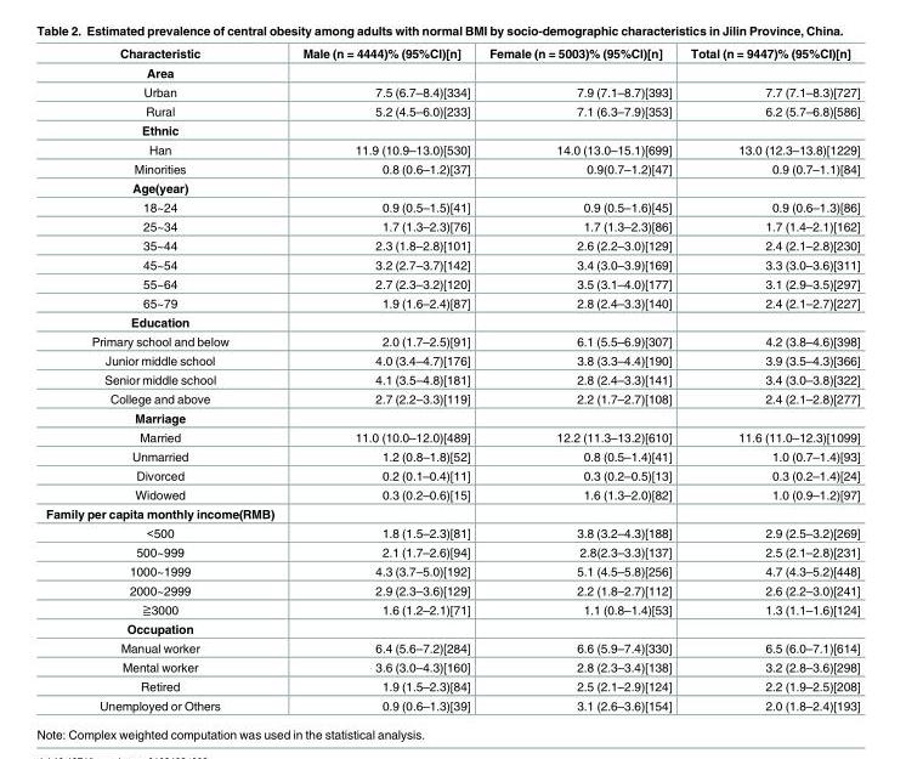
<table><thead><tr><td>Characteristic</td><td>Male (n = 4444)% (95%CI)[n]</td><td>Female (n = 5003)% (95%CI)[n]</td><td>Total (n = 9447)% (95%CI)[n]</td></tr></thead><tbody><tr><td colspan="4">Area</td></tr><tr><td>Urban</td><td>7.5 (6.7–8.4)[334]</td><td>7.9 (7.1–8.7)[393]</td><td>7.7 (7.1–8.3)[727]</td></tr><tr><td>Rural</td><td>5.2 (4.5–6.0)[233]</td><td>7.1 (6.3–7.9)[353]</td><td>6.2 (5.7–6.8)[586]</td></tr><tr><td colspan="4">Ethnic</td></tr><tr><td>Han</td><td>11.9 (10.9–13.0)[530]</td><td>14.0 (13.0–15.1)[699]</td><td>13.0 (12.3–13.8)[1229]</td></tr><tr><td>Minorities</td><td>0.8 (0.6–1.2)[37]</td><td>0.9(0.7–1.2)[47]</td><td>0.9 (0.7–1.1)[84]</td></tr><tr><td colspan="4">Age(year)</td></tr><tr><td>18~24</td><td>0.9 (0.5–1.5)[41]</td><td>0.9 (0.5–1.6)[45]</td><td>0.9 (0.6–1.3)[86]</td></tr><tr><td>25~34</td><td>1.7 (1.3–2.3)[76]</td><td>1.7 (1.3–2.3)[86]</td><td>1.7 (1.4–2.1)[162]</td></tr><tr><td>35~44</td><td>2.3 (1.8–2.8)[101]</td><td>2.6 (2.2–3.0)[129]</td><td>2.4 (2.1–2.8)[230]</td></tr><tr><td>45~54</td><td>3.2 (2.7–3.7)[142]</td><td>3.4 (3.0–3.9)[169]</td><td>3.3 (3.0–3.6)[311]</td></tr><tr><td>55~64</td><td>2.7 (2.3–3.2)[120]</td><td>3.5 (3.1–4.0)[177]</td><td>3.1 (2.9–3.5)[297]</td></tr><tr><td>65~79</td><td>1.9 (1.6–2.4)[87]</td><td>2.8 (2.4–3.3)[140]</td><td>2.4 (2.1–2.7)[227]</td></tr><tr><td colspan="4">Education</td></tr><tr><td>Primary school and below</td><td>2.0 (1.7–2.5)[91]</td><td>6.1 (5.5–6.9)[307]</td><td>4.2 (3.8–4.6)[398]</td></tr><tr><td>Junior middle school</td><td>4.0 (3.4–4.7)[176]</td><td>3.8 (3.3–4.4)[190]</td><td>3.9 (3.5–4.3)[366]</td></tr><tr><td>Senior middle school</td><td>4.1 (3.5–4.8)[181]</td><td>2.8 (2.4–3.3)[141]</td><td>3.4 (3.0–3.8)[322]</td></tr><tr><td>College and above</td><td>2.7 (2.2–3.3)[119]</td><td>2.2 (1.7–2.7)[108]</td><td>2.4 (2.1–2.8)[277]</td></tr><tr><td colspan="4">Marriage</td></tr><tr><td>Married</td><td>11.0 (10.0–12.0)[489]</td><td>12.2 (11.3–13.2)[610]</td><td>11.6 (11.0–12.3)[1099]</td></tr><tr><td>Unmarried</td><td>1.2 (0.8–1.8)[52]</td><td>0.8 (0.5–1.4)[41]</td><td>1.0 (0.7–1.4)[93]</td></tr><tr><td>Divorced</td><td>0.2 (0.1–0.4)[11]</td><td>0.3 (0.2–0.5)[13]</td><td>0.3 (0.2–1.4)[24]</td></tr><tr><td>Widowed</td><td>0.3 (0.2–0.6)[15]</td><td>1.6 (1.3–2.0)[82]</td><td>1.0 (0.9–1.2)[97]</td></tr><tr><td colspan="4">Family per capita monthly income(RMB)</td></tr><tr><td>&lt;500</td><td>1.8 (1.5–2.3)[81]</td><td>3.8 (3.2–4.3)[188]</td><td>2.9 (2.5–3.2)[269]</td></tr><tr><td>500~999</td><td>2.1 (1.7–2.6)[94]</td><td>2.8(2.3–3.3)[137]</td><td>2.5 (2.1–2.8)[231]</td></tr><tr><td>1000~1999</td><td>4.3 (3.7–5.0)[192]</td><td>5.1 (4.5–5.8)[256]</td><td>4.7 (4.3–5.2)[448]</td></tr><tr><td>2000~2999</td><td>2.9 (2.3–3.6)[129]</td><td>2.2 (1.8–2.7)[112]</td><td>2.6 (2.2–3.0)[241]</td></tr><tr><td>≧3000</td><td>1.6 (1.2–2.1)[71]</td><td>1.1 (0.8–1.4)[53]</td><td>1.3 (1.1–1.6)[124]</td></tr><tr><td colspan="4">Occupation</td></tr><tr><td>Manual worker</td><td>6.4 (5.6–7.2)[284]</td><td>6.6 (5.9–7.4)[330]</td><td>6.5 (6.0–7.1)[614]</td></tr><tr><td>Mental worker</td><td>3.6 (3.0–4.3)[160]</td><td>2.8 (2.3–3.4)[138]</td><td>3.2 (2.8–3.6)[298]</td></tr><tr><td>Retired</td><td>1.9 (1.5–2.3)[84]</td><td>2.5 (2.1–2.9)[124]</td><td>2.2 (1.9–2.5)[208]</td></tr><tr><td>Unemployed or Others</td><td>0.9 (0.6–1.3)[39]</td><td>3.1 (2.6–3.6)[154]</td><td>2.0 (1.8–2.4)[193]</td></tr></tbody></table>